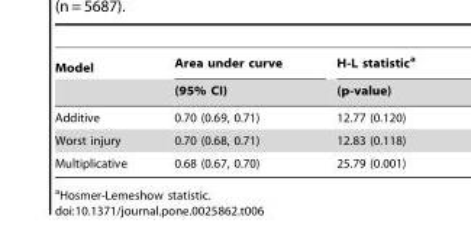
<table><thead><tr><td rowspan="2">Model</td><td rowspan="2">Area under curve (95% CI)</td><td rowspan="2">H-L statistic<sup>a</sup> (p-value)</td></tr><tr></tr></thead><tbody><tr><td>Additive</td><td>0.70 (0.69, 0.71)</td><td>12.77 (0.120)</td></tr><tr><td>Worst injury</td><td>0.70 (0.68, 0.71)</td><td>12.83 (0.118)</td></tr><tr><td>Multiplicative</td><td>0.68 (0.67, 0.70)</td><td>25.79 (0.001)</td></tr></tbody></table>